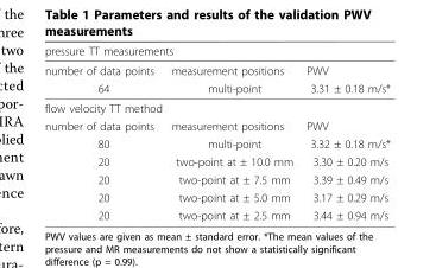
<table><thead><tr><td colspan="3">pressure TT measurements</td></tr><tr><td>number of data points</td><td>measurement positions</td><td>PWV</td></tr></thead><tbody><tr><td>64</td><td>multi-point</td><td>3.31 ± 0.18 m/s*</td></tr><tr><td colspan="3">flow velocity TT method</td></tr><tr><td>number of data points</td><td>measurement positions</td><td>PWV</td></tr><tr><td>80</td><td>multi-point</td><td>3.32 ± 0.18 m/s*</td></tr><tr><td>20</td><td>two-point at ± 10.0 mm</td><td>3.30 ± 0.20 m/s</td></tr><tr><td>20</td><td>two-point at ± 7.5 mm</td><td>3.39 ± 0.49 m/s</td></tr><tr><td>20</td><td>two-point at ± 5.0 mm</td><td>3.17 ± 0.29 m/s</td></tr><tr><td>20</td><td>two-point at ± 2.5 mm</td><td>3.44 ± 0.94 m/s</td></tr></tbody></table>